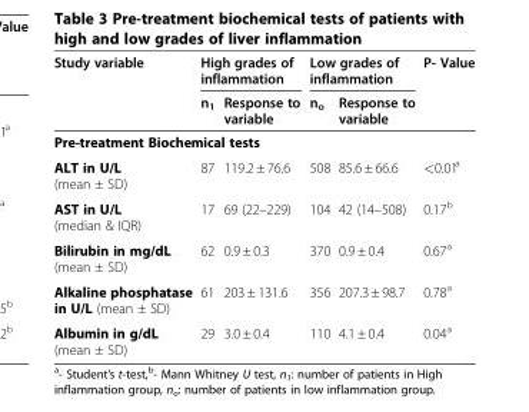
<table><thead><tr><td rowspan="2">Study variable</td><td colspan="2">High grades of inflammation</td><td colspan="2">Low grades of inflammation</td><td rowspan="2">P- Value</td></tr><tr><td>n<sub>1</sub></td><td>Response to variable</td><td>n<sub>o</sub></td><td>Response to variable</td></tr></thead><tbody><tr><td colspan="6">Pre-treatment Biochemical tests</td></tr><tr><td>ALT in U/L (mean ± SD)</td><td>87</td><td>119.2 ± 76.6</td><td>508</td><td>85.6 ± 66.6</td><td>&lt;0.01<sup>a</sup></td></tr><tr><td>AST in U/L (median &amp; IQR)</td><td>17</td><td>69 (22–229)</td><td>104</td><td>42 (14–508)</td><td>0.17<sup>b</sup></td></tr><tr><td>Bilirubin in mg/dL (mean ± SD)</td><td>62</td><td>0.9 ± 0.3</td><td>370</td><td>0.9 ± 0.4</td><td>0.67<sup>a</sup></td></tr><tr><td>Alkaline phosphatase in U/L (mean ± SD)</td><td>61</td><td>203 ± 131.6</td><td>356</td><td>207.3 ± 98.7</td><td>0.78<sup>a</sup></td></tr><tr><td>Albumin in g/dL (mean ± SD)</td><td>29</td><td>3.0 ± 0.4</td><td>110</td><td>4.1 ± 0.4</td><td>0.04<sup>a</sup></td></tr></tbody></table>